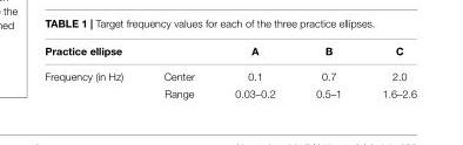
<table><thead><tr><td>Practice ellipse</td><td></td><td>A</td><td>B</td><td>C</td></tr></thead><tbody><tr><td rowspan="2">Frequency (in Hz)</td><td>Center</td><td>0.1</td><td>0.7</td><td>2.0</td></tr><tr><td>Range</td><td>0.03–0.2</td><td>0.5–1</td><td>1.6–2.6</td></tr></tbody></table>